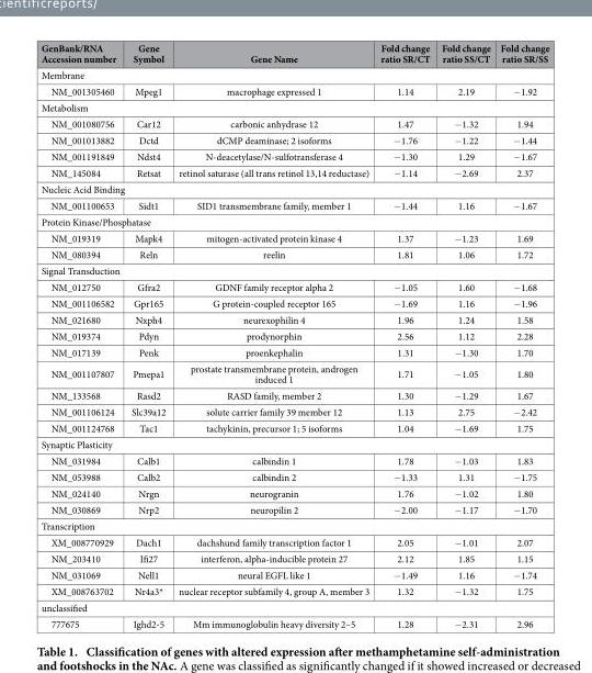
<table><thead><tr><td>GenBank/RNA Accession number</td><td>Gene Symbol</td><td>Gene Name</td><td>Fold change ratio SR/CT</td><td>Fold change ratio SS/CT</td><td>Fold change ratio SR/SS</td></tr></thead><tbody><tr><td colspan="6">Membrane</td></tr><tr><td>NM_001305460</td><td>Mpeg1</td><td>macrophage expressed 1</td><td>1.14</td><td>2.19</td><td>− 1.92</td></tr><tr><td colspan="6">Metabolism</td></tr><tr><td>NM_001080756</td><td>Car12</td><td>carbonic anhydrase 12</td><td>1.47</td><td>− 1.32</td><td>1.94</td></tr><tr><td>NM_001013882</td><td>Dctd</td><td>dCMP deaminase; 2 isoforms</td><td>− 1.76</td><td>− 1.22</td><td>− 1.44</td></tr><tr><td>NM_001191849</td><td>Ndst4</td><td>N-deacetylase/N-sulfotransferase 4</td><td>− 1.30</td><td>1.29</td><td>− 1.67</td></tr><tr><td>NM_145084</td><td>Retsat</td><td>retinol saturase (all trans retinol 13,14 reductase)</td><td>− 1.14</td><td>− 2.69</td><td>2.37</td></tr><tr><td colspan="6">Nucleic Acid Binding</td></tr><tr><td>NM_001100653</td><td>Sidt1</td><td>SID1 transmembrane family, member 1</td><td>− 1.44</td><td>1.16</td><td>− 1.67</td></tr><tr><td colspan="6">Protein Kinase/Phosphatase</td></tr><tr><td>NM_019319</td><td>Mapk4</td><td>mitogen-activated protein kinase 4</td><td>1.37</td><td>− 1.23</td><td>1.69</td></tr><tr><td>NM_080394</td><td>Reln</td><td>reelin</td><td>1.81</td><td>1.06</td><td>1.72</td></tr><tr><td colspan="6">Signal Transduction</td></tr><tr><td>NM_012750</td><td>Gfra2</td><td>GDNF family receptor alpha 2</td><td>− 1.05</td><td>1.60</td><td>− 1.68</td></tr><tr><td>NM_001106582</td><td>Gpr165</td><td>G protein-coupled receptor 165</td><td>− 1.69</td><td>1.16</td><td>− 1.96</td></tr><tr><td>NM_021680</td><td>Nxph4</td><td>neurexophilin 4</td><td>1.96</td><td>1.24</td><td>1.58</td></tr><tr><td>NM_019374</td><td>Pdyn</td><td>prodynorphin</td><td>2.56</td><td>1.12</td><td>2.28</td></tr><tr><td>NM_017139</td><td>Penk</td><td>proenkephalin</td><td>1.31</td><td>− 1.30</td><td>1.70</td></tr><tr><td>NM_001107807</td><td>Pmepa1</td><td>prostate transmembrane protein, androgen induced 1</td><td>1.71</td><td>− 1.05</td><td>1.80</td></tr><tr><td>NM_133568</td><td>Rasd2</td><td>RASD family, member 2</td><td>1.30</td><td>− 1.29</td><td>1.67</td></tr><tr><td>NM_001106124</td><td>Slc39a12</td><td>solute carrier family 39 member 12</td><td>1.13</td><td>2.75</td><td>− 2.42</td></tr><tr><td>NM_001124768</td><td>Tac1</td><td>tachykinin, precursor 1; 5 isoforms</td><td>1.04</td><td>− 1.69</td><td>1.75</td></tr><tr><td colspan="6">Synaptic Plasticity</td></tr><tr><td>NM_031984</td><td>Calb1</td><td>calbindin 1</td><td>1.78</td><td>− 1.03</td><td>1.83</td></tr><tr><td>NM_053988</td><td>Calb2</td><td>calbindin 2</td><td>− 1.33</td><td>1.31</td><td>− 1.75</td></tr><tr><td>NM_024140</td><td>Nrgn</td><td>neurogranin</td><td>1.76</td><td>− 1.02</td><td>1.80</td></tr><tr><td>NM_030869</td><td>Nrp2</td><td>neuropilin 2</td><td>− 2.00</td><td>− 1.17</td><td>− 1.70</td></tr><tr><td colspan="6">Transcription</td></tr><tr><td>XM_008770929</td><td>Dach1</td><td>dachshund family transcription factor 1</td><td>2.05</td><td>− 1.01</td><td>2.07</td></tr><tr><td>NM_203410</td><td>Ifi27</td><td>interferon, alpha-inducible protein 27</td><td>2.12</td><td>1.85</td><td>1.15</td></tr><tr><td>NM_031069</td><td>Nell1</td><td>neural EGFL like 1</td><td>− 1.49</td><td>1.16</td><td>− 1.74</td></tr><tr><td>XM_008763702</td><td>Nr4a3*</td><td>nuclear receptor subfamily 4, group A, member 3</td><td>1.32</td><td>− 1.32</td><td>1.75</td></tr><tr><td colspan="6">unclassified</td></tr><tr><td>777675</td><td>Ighd2-5</td><td>Mm immunoglobulin heavy diversity 2–5</td><td>1.28</td><td>− 2.31</td><td>2.96</td></tr></tbody></table>